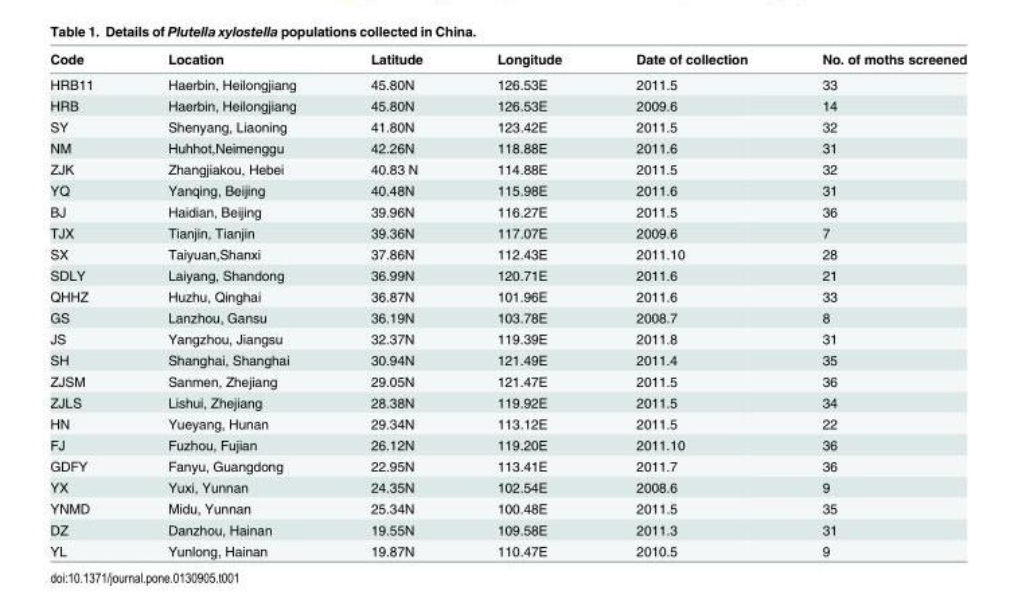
<table><thead><tr><td>Code</td><td>Location</td><td>Latitude</td><td>Longitude</td><td>Date of collection</td><td>No. of moths screened</td></tr></thead><tbody><tr><td>HRB11</td><td>Haerbin, Heilongjiang</td><td>45.80N</td><td>126.53E</td><td>2011.5</td><td>33</td></tr><tr><td>HRB</td><td>Haerbin, Heilongjiang</td><td>45.80N</td><td>126.53E</td><td>2009.6</td><td>14</td></tr><tr><td>SY</td><td>Shenyang, Liaoning</td><td>41.80N</td><td>123.42E</td><td>2011.5</td><td>32</td></tr><tr><td>NM</td><td>Huhhot,Neimenggu</td><td>42.26N</td><td>118.88E</td><td>2011.6</td><td>31</td></tr><tr><td>ZJK</td><td>Zhangjiakou, Hebei</td><td>40.83 N</td><td>114.88E</td><td>2011.5</td><td>32</td></tr><tr><td>YQ</td><td>Yanqing, Beijing</td><td>40.48N</td><td>115.98E</td><td>2011.6</td><td>31</td></tr><tr><td>BJ</td><td>Haidian, Beijing</td><td>39.96N</td><td>116.27E</td><td>2011.5</td><td>36</td></tr><tr><td>TJX</td><td>Tianjin, Tianjin</td><td>39.36N</td><td>117.07E</td><td>2009.6</td><td>7</td></tr><tr><td>SX</td><td>Taiyuan,Shanxi</td><td>37.86N</td><td>112.43E</td><td>2011.10</td><td>28</td></tr><tr><td>SDLY</td><td>Laiyang, Shandong</td><td>36.99N</td><td>120.71E</td><td>2011.6</td><td>21</td></tr><tr><td>QHHZ</td><td>Huzhu, Qinghai</td><td>36.87N</td><td>101.96E</td><td>2011.6</td><td>33</td></tr><tr><td>GS</td><td>Lanzhou, Gansu</td><td>36.19N</td><td>103.78E</td><td>2008.7</td><td>8</td></tr><tr><td>JS</td><td>Yangzhou, Jiangsu</td><td>32.37N</td><td>119.39E</td><td>2011.8</td><td>31</td></tr><tr><td>SH</td><td>Shanghai, Shanghai</td><td>30.94N</td><td>121.49E</td><td>2011.4</td><td>35</td></tr><tr><td>ZJSM</td><td>Sanmen, Zhejiang</td><td>29.05N</td><td>121.47E</td><td>2011.5</td><td>36</td></tr><tr><td>ZJLS</td><td>Lishui, Zhejiang</td><td>28.38N</td><td>119.92E</td><td>2011.5</td><td>34</td></tr><tr><td>HN</td><td>Yueyang, Hunan</td><td>29.34N</td><td>113.12E</td><td>2011.5</td><td>22</td></tr><tr><td>FJ</td><td>Fuzhou, Fujian</td><td>26.12N</td><td>119.20E</td><td>2011.10</td><td>36</td></tr><tr><td>GDFY</td><td>Fanyu, Guangdong</td><td>22.95N</td><td>113.41E</td><td>2011.7</td><td>36</td></tr><tr><td>YX</td><td>Yuxi, Yunnan</td><td>24.35N</td><td>102.54E</td><td>2008.6</td><td>9</td></tr><tr><td>YNMD</td><td>Midu, Yunnan</td><td>25.34N</td><td>100.48E</td><td>2011.5</td><td>35</td></tr><tr><td>DZ</td><td>Danzhou, Hainan</td><td>19.55N</td><td>109.58E</td><td>2011.3</td><td>31</td></tr><tr><td>YL</td><td>Yunlong, Hainan</td><td>19.87N</td><td>110.47E</td><td>2010.5</td><td>9</td></tr></tbody></table>